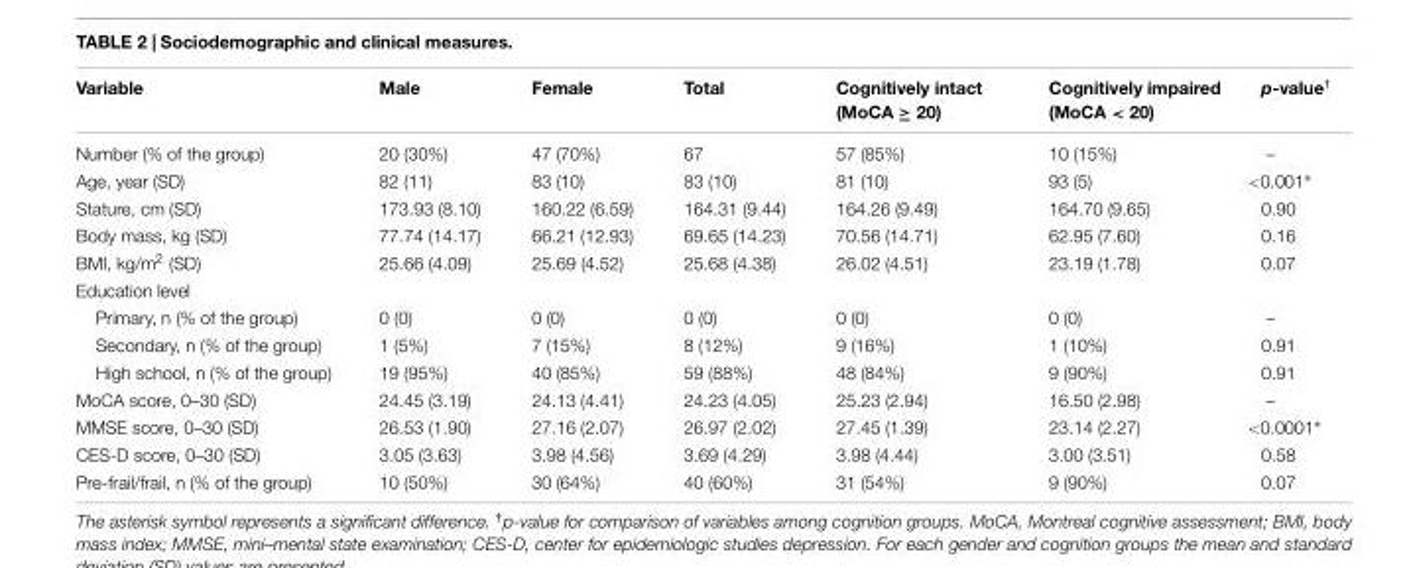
<table><thead><tr><td>Variable</td><td>Male</td><td>Female</td><td>Total</td><td>Cognitively intact (MoCA ≥ 20)</td><td>Cognitively impaired (MoCA &lt; 20)</td><td>p-value<sup>†</sup></td></tr></thead><tbody><tr><td>Number (% of the group)</td><td>20 (30%)</td><td>47 (70%)</td><td>67</td><td>57 (85%)</td><td>10 (15%)</td><td>–</td></tr><tr><td>Age, year (SD)</td><td>82 (11)</td><td>83 (10)</td><td>83 (10)</td><td>81 (10)</td><td>93 (5)</td><td>&lt;0.001∗</td></tr><tr><td>Stature, cm (SD)</td><td>173.93 (8.10)</td><td>160.22 (6.59)</td><td>164.31 (9.44)</td><td>164.26 (9.49)</td><td>164.70 (9.65)</td><td>0.90</td></tr><tr><td>Body mass, kg (SD)</td><td>77.74 (14.17)</td><td>66.21 (12.93)</td><td>69.65 (14.23)</td><td>70.56 (14.71)</td><td>62.95 (7.60)</td><td>0.16</td></tr><tr><td>BMI, kg/m<sup>2</sup> (SD)</td><td>25.66 (4.09)</td><td>25.69 (4.52)</td><td>25.68 (4.38)</td><td>26.02 (4.51)</td><td>23.19 (1.78)</td><td>0.07</td></tr><tr><td colspan="7">Education level</td></tr><tr><td>Primary, n (% of the group)</td><td>0 (0)</td><td>0 (0)</td><td>0 (0)</td><td>0 (0)</td><td>0 (0)</td><td>–</td></tr><tr><td>Secondary, n (% of the group)</td><td>1 (5%)</td><td>7 (15%)</td><td>8 (12%)</td><td>9 (16%)</td><td>1 (10%)</td><td>0.91</td></tr><tr><td>High school, n (% of the group)</td><td>19 (95%)</td><td>40 (85%)</td><td>59 (88%)</td><td>48 (84%)</td><td>9 (90%)</td><td>0.91</td></tr><tr><td>MoCA score, 0–30 (SD)</td><td>24.45 (3.19)</td><td>24.13 (4.41)</td><td>24.23 (4.05)</td><td>25.23 (2.94)</td><td>16.50 (2.98)</td><td>–</td></tr><tr><td>MMSE score, 0–30 (SD)</td><td>26.53 (1.90)</td><td>27.16 (2.07)</td><td>26.97 (2.02)</td><td>27.45 (1.39)</td><td>23.14 (2.27)</td><td>&lt;0.0001∗</td></tr><tr><td>CES-D score, 0–30 (SD)</td><td>3.05 (3.63)</td><td>3.98 (4.56)</td><td>3.69 (4.29)</td><td>3.98 (4.44)</td><td>3.00 (3.51)</td><td>0.58</td></tr><tr><td>Pre-frail/frail, n (% of the group)</td><td>10 (50%)</td><td>30 (64%)</td><td>40 (60%)</td><td>31 (54%)</td><td>9 (90%)</td><td>0.07</td></tr></tbody></table>